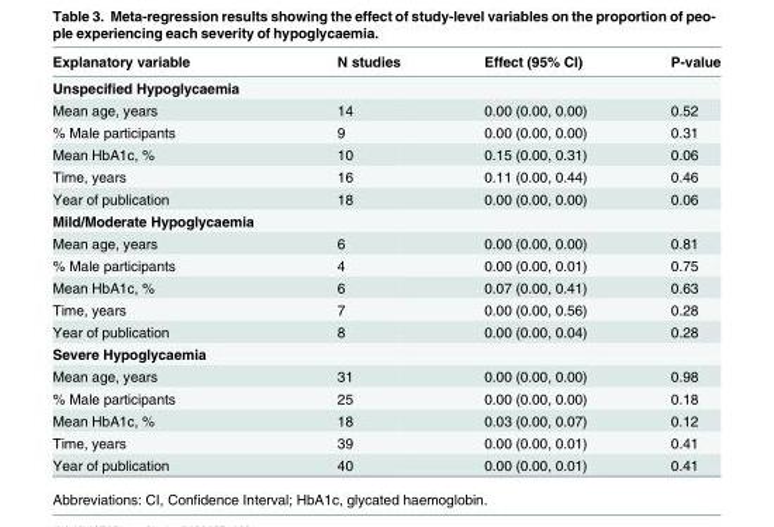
<table><thead><tr><td>Explanatory variable</td><td>N studies</td><td>Effect (95% CI)</td><td>P-value</td></tr></thead><tbody><tr><td colspan="4">Unspecified Hypoglycaemia</td></tr><tr><td>Mean age, years</td><td>14</td><td>0.00 (0.00, 0.00)</td><td>0.52</td></tr><tr><td>% Male participants</td><td>9</td><td>0.00 (0.00, 0.00)</td><td>0.31</td></tr><tr><td>Mean HbA1c, %</td><td>10</td><td>0.15 (0.00, 0.31)</td><td>0.06</td></tr><tr><td>Time, years</td><td>16</td><td>0.11 (0.00, 0.44)</td><td>0.46</td></tr><tr><td>Year of publication</td><td>18</td><td>0.00 (0.00, 0.00)</td><td>0.06</td></tr><tr><td colspan="4">Mild/Moderate Hypoglycaemia</td></tr><tr><td>Mean age, years</td><td>6</td><td>0.00 (0.00, 0.00)</td><td>0.81</td></tr><tr><td>% Male participants</td><td>4</td><td>0.00 (0.00, 0.01)</td><td>0.75</td></tr><tr><td>Mean HbA1c, %</td><td>6</td><td>0.07 (0.00, 0.41)</td><td>0.63</td></tr><tr><td>Time, years</td><td>7</td><td>0.00 (0.00, 0.56)</td><td>0.28</td></tr><tr><td>Year of publication</td><td>8</td><td>0.00 (0.00, 0.04)</td><td>0.28</td></tr><tr><td colspan="4">Severe Hypoglycaemia</td></tr><tr><td>Mean age, years</td><td>31</td><td>0.00 (0.00, 0.00)</td><td>0.98</td></tr><tr><td>% Male participants</td><td>25</td><td>0.00 (0.00, 0.00)</td><td>0.18</td></tr><tr><td>Mean HbA1c, %</td><td>18</td><td>0.03 (0.00, 0.07)</td><td>0.12</td></tr><tr><td>Time, years</td><td>39</td><td>0.00 (0.00, 0.01)</td><td>0.41</td></tr><tr><td>Year of publication</td><td>40</td><td>0.00 (0.00, 0.01)</td><td>0.41</td></tr></tbody></table>